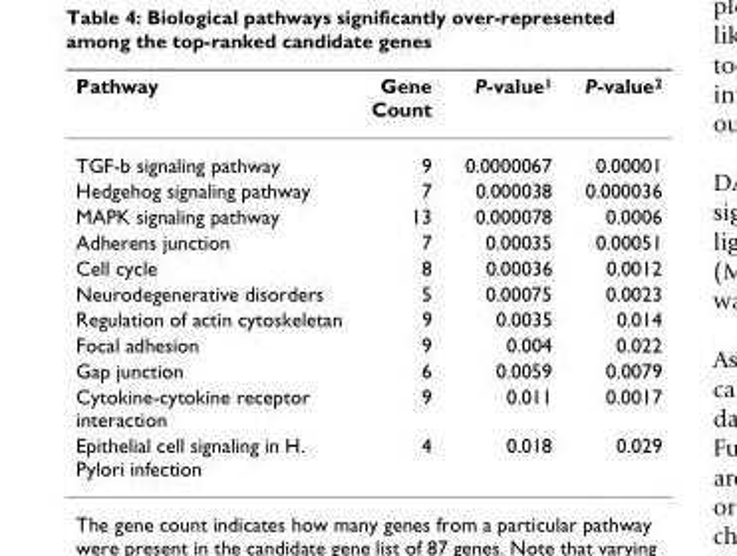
<table><thead><tr><td>Pathway</td><td>Gene Count</td><td>P-value<sup>1</sup></td><td>P-value<sup>2</sup></td></tr></thead><tbody><tr><td>TGF-b signaling pathway</td><td>9</td><td>0.0000067</td><td>0.00001</td></tr><tr><td>Hedgehog signaling pathway</td><td>7</td><td>0.000038</td><td>0.000036</td></tr><tr><td>MAPK signaling pathway</td><td>13</td><td>0.000078</td><td>0.0006</td></tr><tr><td>Adherens junction</td><td>7</td><td>0.00035</td><td>0.00051</td></tr><tr><td>Cell cycle</td><td>8</td><td>0.00036</td><td>0.0012</td></tr><tr><td>Neurodegenerative disorders</td><td>5</td><td>0.00075</td><td>0.0023</td></tr><tr><td>Regulation of actin cytoskeletan</td><td>9</td><td>0.0035</td><td>0.014</td></tr><tr><td>Focal adhesion</td><td>9</td><td>0.004</td><td>0.022</td></tr><tr><td>Gap junction</td><td>6</td><td>0.0059</td><td>0.0079</td></tr><tr><td>Cytokine-cytokine receptor interaction</td><td>9</td><td>0.011</td><td>0.0017</td></tr><tr><td>Epithelial cell signaling in H. Pylori infection</td><td>4</td><td>0.018</td><td>0.029</td></tr></tbody></table>